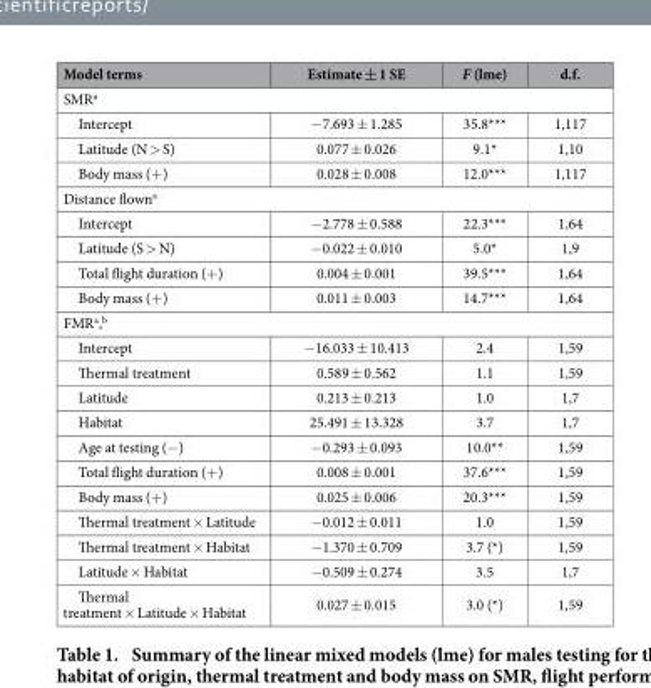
<table><thead><tr><td>Model terms</td><td>Estimate ± 1 SE</td><td>F (lme)</td><td>d.f.</td></tr></thead><tbody><tr><td colspan="4">SMR<sup>a</sup></td></tr><tr><td>Intercept</td><td>− 7.693 ± 1.285</td><td>35.8***</td><td>1,117</td></tr><tr><td>Latitude (N &gt; S)</td><td>0.077 ± 0.026</td><td>9.1*</td><td>1,10</td></tr><tr><td>Body mass (+ )</td><td>0.028 ± 0.008</td><td>12.0***</td><td>1,117</td></tr><tr><td colspan="4">Distance flown<sup>a</sup></td></tr><tr><td>Intercept</td><td>− 2.778 ± 0.588</td><td>22.3***</td><td>1,64</td></tr><tr><td>Latitude (S &gt; N)</td><td>− 0.022 ± 0.010</td><td>5.0*</td><td>1,9</td></tr><tr><td>Total flight duration (+ )</td><td>0.004 ± 0.001</td><td>39.5***</td><td>1,64</td></tr><tr><td>Body mass (+ )</td><td>0.011 ± 0.003</td><td>14.7***</td><td>1,64</td></tr><tr><td colspan="4">FMR<sup>a</sup>,<sup>b</sup></td></tr><tr><td>Intercept</td><td>− 16.033 ± 10.413</td><td>2.4</td><td>1,59</td></tr><tr><td>Thermal treatment</td><td>0.589 ± 0.562</td><td>1.1</td><td>1,59</td></tr><tr><td>Latitude</td><td>0.213 ± 0.213</td><td>1.0</td><td>1,7</td></tr><tr><td>Habitat</td><td>25.491 ± 13.328</td><td>3.7</td><td>1,7</td></tr><tr><td>Age at testing (− )</td><td>− 0.293 ± 0.093</td><td>10.0**</td><td>1,59</td></tr><tr><td>Total flight duration (+ )</td><td>0.008 ± 0.001</td><td>37.6***</td><td>1,59</td></tr><tr><td>Body mass (+ )</td><td>0.025 ± 0.006</td><td>20.3***</td><td>1,59</td></tr><tr><td>Thermal treatment × Latitude</td><td>− 0.012 ± 0.011</td><td>1.0</td><td>1,59</td></tr><tr><td>Thermal treatment × Habitat</td><td>− 1.370 ± 0.709</td><td>3.7 (*)</td><td>1,59</td></tr><tr><td>Latitude × Habitat</td><td>− 0.509 ± 0.274</td><td>3.5</td><td>1,7</td></tr><tr><td>Thermal treatment × Latitude × Habitat</td><td>0.027 ± 0.015</td><td>3.0 (*)</td><td>1,59</td></tr></tbody></table>